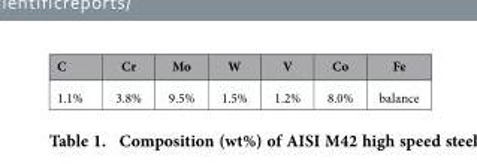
<table><thead><tr><td>C</td><td>Cr</td><td>Mo</td><td>W</td><td>V</td><td>Co</td><td>Fe</td></tr></thead><tbody><tr><td>1.1%</td><td>3.8%</td><td>9.5%</td><td>1.5%</td><td>1.2%</td><td>8.0%</td><td>balance</td></tr></tbody></table>